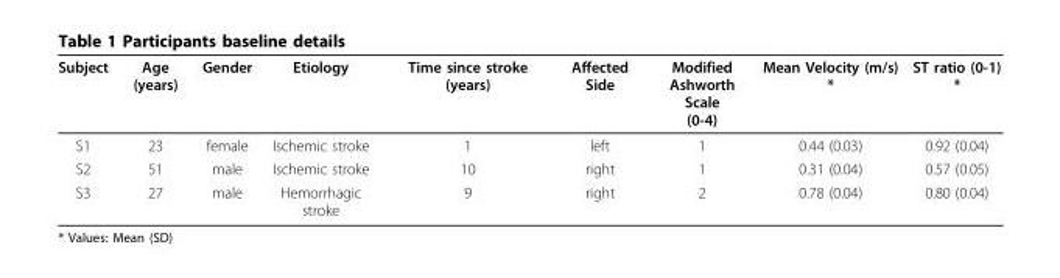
<table><thead><tr><td>Subject</td><td>Age (years)</td><td>Gender</td><td>Etiology</td><td>Time since stroke (years)</td><td>Affected Side</td><td>Modified Ashworth Scale (0-4)</td><td>Mean Velocity (m/s) *</td><td>ST ratio (0-1) *</td></tr></thead><tbody><tr><td>S1</td><td>23</td><td>female</td><td>Ischemic stroke</td><td>1</td><td>left</td><td>1</td><td>0.44 (0.03)</td><td>0.92 (0.04)</td></tr><tr><td>S2</td><td>51</td><td>male</td><td>Ischemic stroke</td><td>10</td><td>right</td><td>1</td><td>0.31 (0.04)</td><td>0.57 (0.05)</td></tr><tr><td>S3</td><td>27</td><td>male</td><td>Hemorrhagic stroke</td><td>9</td><td>right</td><td>2</td><td>0.78 (0.04)</td><td>0.80 (0.04)</td></tr></tbody></table>